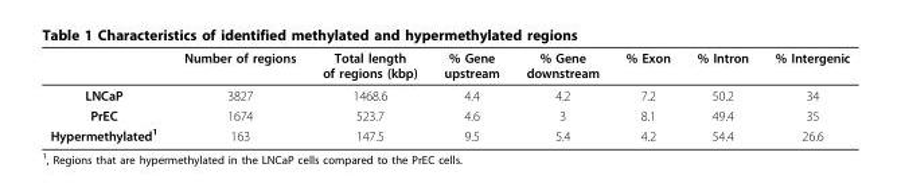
<table><thead><tr><td></td><td>Number of regions</td><td>Total length of regions (kbp)</td><td>% Gene upstream</td><td>% Gene downstream</td><td>% Exon</td><td>% Intron</td><td>% Intergenic</td></tr></thead><tbody><tr><td>LNCaP</td><td>3827</td><td>1468.6</td><td>4.4</td><td>4.2</td><td>7.2</td><td>50.2</td><td>34</td></tr><tr><td>PrEC</td><td>1674</td><td>523.7</td><td>4.6</td><td>3</td><td>8.1</td><td>49.4</td><td>35</td></tr><tr><td>Hypermethylated<sup>1</sup></td><td>163</td><td>147.5</td><td>9.5</td><td>5.4</td><td>4.2</td><td>54.4</td><td>26.6</td></tr></tbody></table>